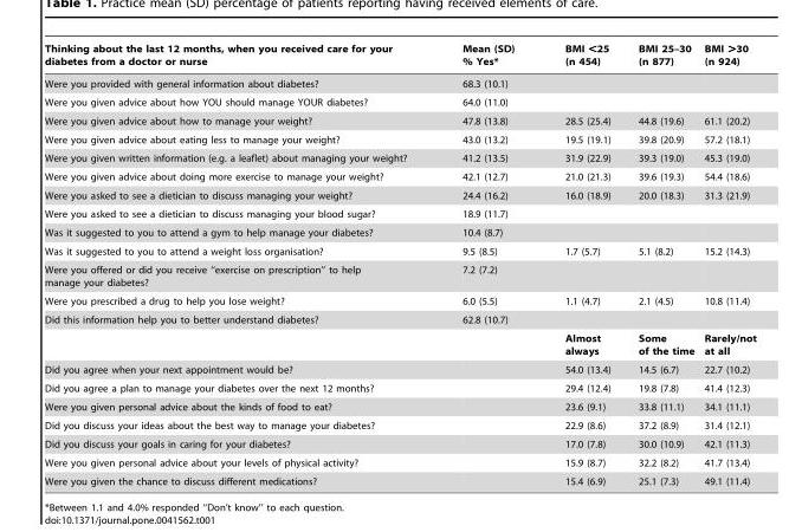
<table><thead><tr><td>Thinking about the last 12 months, when you received care for your diabetes from a doctor or nurse</td><td>Mean (SD) % Yes*</td><td>BMI &lt;25 (n 454)</td><td>BMI 25–30 (n 877)</td><td>BMI &gt;30 (n 924)</td></tr></thead><tbody><tr><td>Were you provided with general information about diabetes?</td><td>68.3 (10.1)</td><td></td><td></td><td></td></tr><tr><td>Were you given advice about how YOU should manage YOUR diabetes?</td><td>64.0 (11.0)</td><td></td><td></td><td></td></tr><tr><td>Were you given advice about how to manage your weight?</td><td>47.8 (13.8)</td><td>28.5 (25.4)</td><td>44.8 (19.6)</td><td>61.1 (20.2)</td></tr><tr><td>Were you given advice about eating less to manage your weight?</td><td>43.0 (13.2)</td><td>19.5 (19.1)</td><td>39.8 (20.9)</td><td>57.2 (18.1)</td></tr><tr><td>Were you given written information (e.g. a leaflet) about managing your weight?</td><td>41.2 (13.5)</td><td>31.9 (22.9)</td><td>39.3 (19.0)</td><td>45.3 (19.0)</td></tr><tr><td>Were you given advice about doing more exercise to manage your weight?</td><td>42.1 (12.7)</td><td>21.0 (21.3)</td><td>39.6 (19.3)</td><td>54.4 (18.6)</td></tr><tr><td>Were you asked to see a dietician to discuss managing your weight?</td><td>24.4 (16.2)</td><td>16.0 (18.9)</td><td>20.0 (18.3)</td><td>31.3 (21.9)</td></tr><tr><td>Were you asked to see a dietician to discuss managing your blood sugar?</td><td>18.9 (11.7)</td><td></td><td></td><td></td></tr><tr><td>Was it suggested to you to attend a gym to help manage your diabetes?</td><td>10.4 (8.7)</td><td></td><td></td><td></td></tr><tr><td>Was it suggested to you to attend a weight loss organisation?</td><td>9.5 (8.5)</td><td>1.7 (5.7)</td><td>5.1 (8.2)</td><td>15.2 (14.3)</td></tr><tr><td>Were you offered or did you receive ‘‘exercise on prescription’’ to help manage your diabetes?</td><td>7.2 (7.2)</td><td></td><td></td><td></td></tr><tr><td>Were you prescribed a drug to help you lose weight?</td><td>6.0 (5.5)</td><td>1.1 (4.7)</td><td>2.1 (4.5)</td><td>10.8 (11.4)</td></tr><tr><td rowspan="2">Did this information help you to better understand diabetes?</td><td>62.8 (10.7)</td><td></td><td></td><td></td></tr><tr><td></td><td>Almost always</td><td>Some of the time</td><td>Rarely/not at all</td></tr><tr><td>Did you agree when your next appointment would be?</td><td></td><td>54.0 (13.4)</td><td>14.5 (6.7)</td><td>22.7 (10.2)</td></tr><tr><td>Did you agree a plan to manage your diabetes over the next 12 months?</td><td></td><td>29.4 (12.4)</td><td>19.8 (7.8)</td><td>41.4 (12.3)</td></tr><tr><td>Were you given personal advice about the kinds of food to eat?</td><td></td><td>23.6 (9.1)</td><td>33.8 (11.1)</td><td>34.1 (11.1)</td></tr><tr><td>Did you discuss your ideas about the best way to manage your diabetes?</td><td></td><td>22.9 (8.6)</td><td>37.2 (8.9)</td><td>31.4 (12.1)</td></tr><tr><td>Did you discuss your goals in caring for your diabetes?</td><td></td><td>17.0 (7.8)</td><td>30.0 (10.9)</td><td>42.1 (11.3)</td></tr><tr><td>Were you given personal advice about your levels of physical activity?</td><td></td><td>15.9 (8.7)</td><td>32.2 (8.2)</td><td>41.7 (13.4)</td></tr><tr><td>Were you given the chance to discuss different medications?</td><td></td><td>15.4 (6.9)</td><td>25.1 (7.3)</td><td>49.1 (11.4)</td></tr></tbody></table>